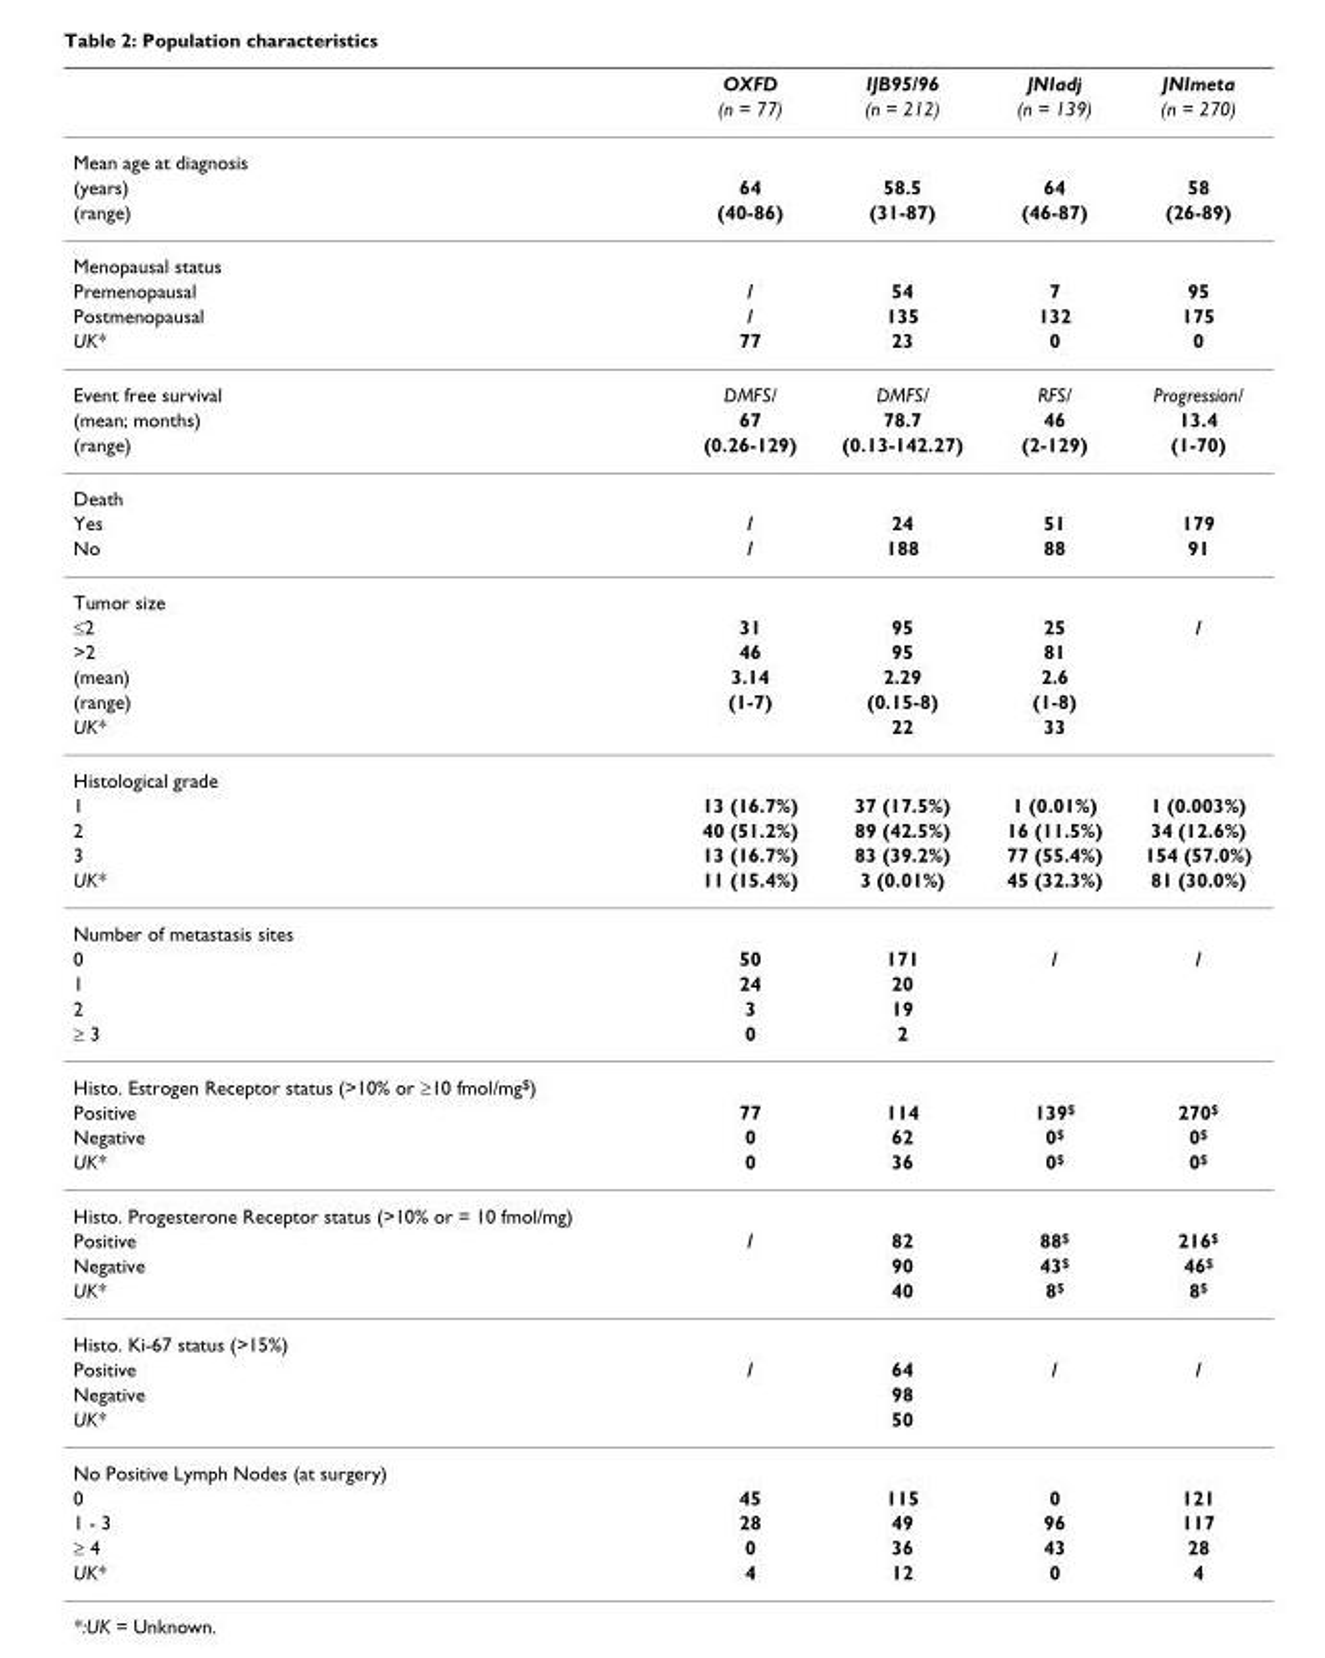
<table><thead><tr><td rowspan="2"></td><td rowspan="2">OXFD (n = 77)</td><td rowspan="2">IJB95/96 (n = 212)</td><td rowspan="2">JNIadj (n = 139)</td><td rowspan="2">JNImeta (n = 270)</td></tr><tr></tr></thead><tbody><tr><td colspan="5">Mean age at diagnosis</td></tr><tr><td>(years)</td><td>64</td><td>58.5</td><td>64</td><td>58</td></tr><tr><td>(range)</td><td>(40-86)</td><td>(31-87)</td><td>(46-87)</td><td>(26-89)</td></tr><tr><td colspan="5">Menopausal status</td></tr><tr><td>Premenopausal</td><td>/</td><td>54</td><td>7</td><td>95</td></tr><tr><td>Postmenopausal</td><td>/</td><td>135</td><td>132</td><td>175</td></tr><tr><td>UK*</td><td>77</td><td>23</td><td>0</td><td>0</td></tr><tr><td>Event free survival</td><td>DMFS/</td><td>DMFS/</td><td>RFS/</td><td>Progression/</td></tr><tr><td>(mean; months)</td><td>67</td><td>78.7</td><td>46</td><td>13.4</td></tr><tr><td>(range)</td><td>(0.26-129)</td><td>(0.13-142.27)</td><td>(2-129)</td><td>(1-70)</td></tr><tr><td colspan="5">Death</td></tr><tr><td>Yes</td><td>/</td><td>24</td><td>51</td><td>179</td></tr><tr><td>No</td><td>/</td><td>188</td><td>88</td><td>91</td></tr><tr><td colspan="5">Tumor size</td></tr><tr><td>≤2</td><td>31</td><td>95</td><td>25</td><td>/</td></tr><tr><td>&gt;2</td><td>46</td><td>95</td><td>81</td><td></td></tr><tr><td>(mean)</td><td>3.14</td><td>2.29</td><td>2.6</td><td></td></tr><tr><td>(range)</td><td>(1-7)</td><td>(0.15-8)</td><td>(1-8)</td><td></td></tr><tr><td>UK*</td><td></td><td>22</td><td>33</td><td></td></tr><tr><td colspan="5">Histological grade</td></tr><tr><td>1</td><td>13 (16.7%)</td><td>37 (17.5%)</td><td>1 (0.01%)</td><td>1 (0.003%)</td></tr><tr><td>2</td><td>40 (51.2%)</td><td>89 (42.5%)</td><td>16 (11.5%)</td><td>34 (12.6%)</td></tr><tr><td>3</td><td>13 (16.7%)</td><td>83 (39.2%)</td><td>77 (55.4%)</td><td>154 (57.0%)</td></tr><tr><td>UK*</td><td>11 (15.4%)</td><td>3 (0.01%)</td><td>45 (32.3%)</td><td>81 (30.0%)</td></tr><tr><td colspan="5">Number of metastasis sites</td></tr><tr><td>0</td><td>50</td><td>171</td><td>/</td><td>/</td></tr><tr><td>1</td><td>24</td><td>20</td><td></td><td></td></tr><tr><td>2</td><td>3</td><td>19</td><td></td><td></td></tr><tr><td>≥ 3</td><td>0</td><td>2</td><td></td><td></td></tr><tr><td colspan="5">Histo. Estrogen Receptor status (&gt;10% or ≥10 fmol/mg<sup>$</sup>)</td></tr><tr><td>Positive</td><td>77</td><td>114</td><td>139<sup>$</sup></td><td>270<sup>$</sup></td></tr><tr><td>Negative</td><td>0</td><td>62</td><td>0<sup>$</sup></td><td>0<sup>$</sup></td></tr><tr><td>UK*</td><td>0</td><td>36</td><td>0<sup>$</sup></td><td>0<sup>$</sup></td></tr><tr><td colspan="5">Histo. Progesterone Receptor status (&gt;10% or = 10 fmol/mg)</td></tr><tr><td>Positive</td><td>/</td><td>82</td><td>88<sup>$</sup></td><td>216<sup>$</sup></td></tr><tr><td>Negative</td><td></td><td>90</td><td>43<sup>$</sup></td><td>46<sup>$</sup></td></tr><tr><td>UK*</td><td></td><td>40</td><td>8<sup>$</sup></td><td>8<sup>$</sup></td></tr><tr><td colspan="5">Histo. Ki-67 status (&gt;15%)</td></tr><tr><td>Positive</td><td>/</td><td>64</td><td>/</td><td>/</td></tr><tr><td>Negative</td><td></td><td>98</td><td></td><td></td></tr><tr><td>UK*</td><td></td><td>50</td><td></td><td></td></tr><tr><td colspan="5">No Positive Lymph Nodes (at surgery)</td></tr><tr><td>0</td><td>45</td><td>115</td><td>0</td><td>121</td></tr><tr><td>1 - 3</td><td>28</td><td>49</td><td>96</td><td>117</td></tr><tr><td>≥ 4</td><td>0</td><td>36</td><td>43</td><td>28</td></tr><tr><td>UK*</td><td>4</td><td>12</td><td>0</td><td>4</td></tr></tbody></table>